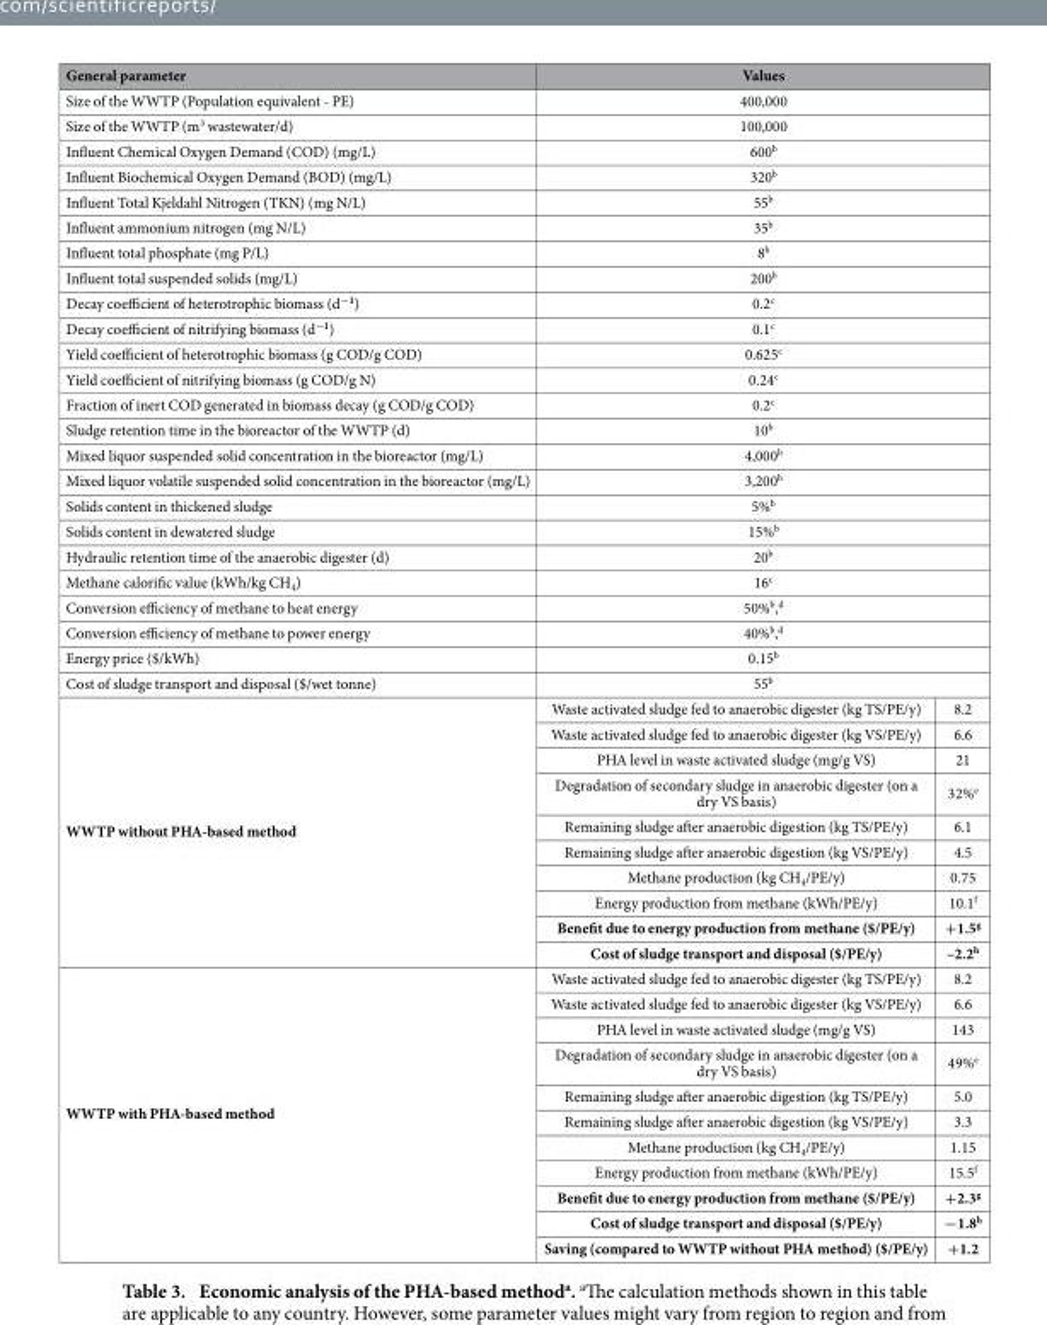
<table><thead><tr><td>General parameter</td><td>Values</td><td></td></tr></thead><tbody><tr><td>Size of the WWTP (Population equivalent - PE)</td><td>400,000</td><td></td></tr><tr><td>Size of the WWTP (m<sup>3</sup> wastewater/d)</td><td>100,000</td><td></td></tr><tr><td>Influent Chemical Oxygen Demand (COD) (mg/L)</td><td>600<sup>b</sup></td><td></td></tr><tr><td>Influent Biochemical Oxygen Demand (BOD) (mg/L)</td><td>320<sup>b</sup></td><td></td></tr><tr><td>Influent Total Kjeldahl Nitrogen (TKN) (mg N/L)</td><td>55<sup>b</sup></td><td></td></tr><tr><td>Influent ammonium nitrogen (mg N/L)</td><td>35<sup>b</sup></td><td></td></tr><tr><td>Influent total phosphate (mg P/L)</td><td>8<sup>b</sup></td><td></td></tr><tr><td>Influent total suspended solids (mg/L)</td><td>200<sup>b</sup></td><td></td></tr><tr><td>Decay coefficient of heterotrophic biomass (d<sup>−1</sup>)</td><td>0.2<sup>c</sup></td><td></td></tr><tr><td>Decay coefficient of nitrifying biomass (d<sup>−1</sup>)</td><td>0.1<sup>c</sup></td><td></td></tr><tr><td>Yield coefficient of heterotrophic biomass (g COD/g COD)</td><td>0.625<sup>c</sup></td><td></td></tr><tr><td>Yield coefficient of nitrifying biomass (g COD/g N)</td><td>0.24<sup>c</sup></td><td></td></tr><tr><td>Fraction of inert COD generated in biomass decay (g COD/g COD)</td><td>0.2<sup>c</sup></td><td></td></tr><tr><td>Sludge retention time in the bioreactor of the WWTP (d)</td><td>10<sup>b</sup></td><td></td></tr><tr><td>Mixed liquor suspended solid concentration in the bioreactor (mg/L)</td><td>4,000<sup>b</sup></td><td></td></tr><tr><td>Mixed liquor volatile suspended solid concentration in the bioreactor (mg/L)</td><td>3,200<sup>b</sup></td><td></td></tr><tr><td>Solids content in thickened sludge</td><td>5%<sup>b</sup></td><td></td></tr><tr><td>Solids content in dewatered sludge</td><td>15%<sup>b</sup></td><td></td></tr><tr><td>Hydraulic retention time of the anaerobic digester (d)</td><td>20<sup>b</sup></td><td></td></tr><tr><td>Methane calorific value (kWh/kg CH<sub>4</sub>)</td><td>16<sup>c</sup></td><td></td></tr><tr><td>Conversion efficiency of methane to heat energy</td><td>50%<sup>b</sup>,<sup>d</sup></td><td></td></tr><tr><td>Conversion efficiency of methane to power energy</td><td>40%<sup>b</sup>,<sup>d</sup></td><td></td></tr><tr><td>Energy price ($/kWh)</td><td>0.15<sup>b</sup></td><td></td></tr><tr><td>Cost of sludge transport and disposal ($/wet tonne)</td><td>55<sup>b</sup></td><td></td></tr><tr><td rowspan="10">WWTP without PHA-based method</td><td>Waste activated sludge fed to anaerobic digester (kg TS/PE/y)</td><td>8.2</td></tr><tr><td>Waste activated sludge fed to anaerobic digester (kg VS/PE/y)</td><td>6.6</td></tr><tr><td>PHA level in waste activated sludge (mg/g VS)</td><td>21</td></tr><tr><td>Degradation of secondary sludge in anaerobic digester (on a dry VS basis)</td><td>32%<sup>e</sup></td></tr><tr><td>Remaining sludge after anaerobic digestion (kg TS/PE/y)</td><td>6.1</td></tr><tr><td>Remaining sludge after anaerobic digestion (kg VS/PE/y)</td><td>4.5</td></tr><tr><td>Methane production (kg CH<sub>4</sub>/PE/y)</td><td>0.75</td></tr><tr><td>Energy production from methane (kWh/PE/y)</td><td>10.1<sup>f</sup></td></tr><tr><td>Benefit due to energy production from methane ($/PE/y)</td><td>+1.5<sup>g</sup></td></tr><tr><td>Cost of sludge transport and disposal ($/PE/y)</td><td>–2.2<sup>h</sup></td></tr><tr><td rowspan="11">WWTP with PHA-based method</td><td>Waste activated sludge fed to anaerobic digester (kg TS/PE/y)</td><td>8.2</td></tr><tr><td>Waste activated sludge fed to anaerobic digester (kg VS/PE/y)</td><td>6.6</td></tr><tr><td>PHA level in waste activated sludge (mg/g VS)</td><td>143</td></tr><tr><td>Degradation of secondary sludge in anaerobic digester (on a dry VS basis)</td><td>49%<sup>e</sup></td></tr><tr><td>Remaining sludge after anaerobic digestion (kg TS/PE/y)</td><td>5.0</td></tr><tr><td>Remaining sludge after anaerobic digestion (kg VS/PE/y)</td><td>3.3</td></tr><tr><td>Methane production (kg CH<sub>4</sub>/PE/y)</td><td>1.15</td></tr><tr><td>Energy production from methane (kWh/PE/y)</td><td>15.5<sup>f</sup></td></tr><tr><td>Benefit due to energy production from methane ($/PE/y)</td><td>+2.3<sup>g</sup></td></tr><tr><td>Cost of sludge transport and disposal ($/PE/y)</td><td>−1.8<sup>h</sup></td></tr><tr><td>Saving (compared to WWTP without PHA method) ($/PE/y)</td><td>+1.2</td></tr></tbody></table>